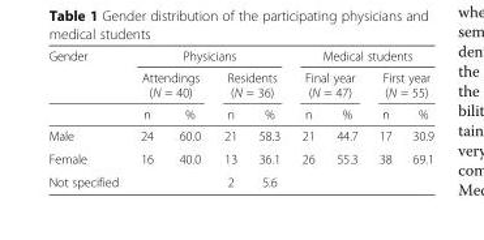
<table><thead><tr><td rowspan="3">Gender</td><td colspan="4">Physicians</td><td colspan="4">Medical students</td></tr><tr><td colspan="2">Attendings (N = 40)</td><td colspan="2">Residents (N = 36)</td><td colspan="2">Final year (N = 47)</td><td colspan="2">First year (N = 55)</td></tr><tr><td>n</td><td>%</td><td>n</td><td>%</td><td>n</td><td>%</td><td>n</td><td>%</td></tr></thead><tbody><tr><td>Male</td><td>24</td><td>60.0</td><td>21</td><td>58.3</td><td>21</td><td>44.7</td><td>17</td><td>30.9</td></tr><tr><td>Female</td><td>16</td><td>40.0</td><td>13</td><td>36.1</td><td>26</td><td>55.3</td><td>38</td><td>69.1</td></tr><tr><td>Not specified</td><td></td><td></td><td>2</td><td>5.6</td><td></td><td></td><td></td><td></td></tr></tbody></table>